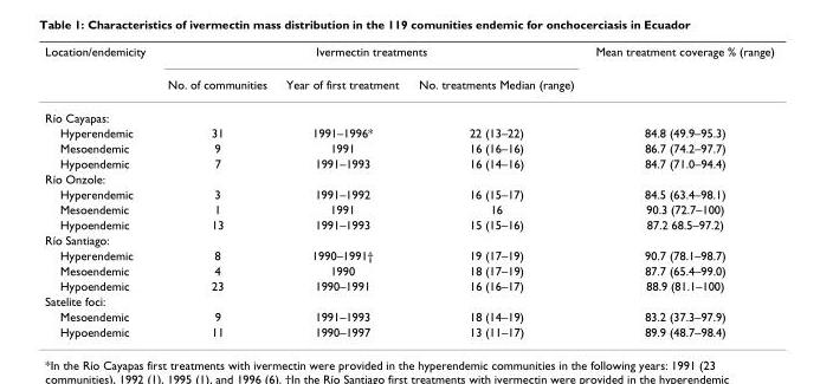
<table><thead><tr><td rowspan="2">Location/endemicity</td><td colspan="3">Ivermectin treatments</td><td rowspan="2">Mean treatment coverage % (range)</td></tr><tr><td>No. of communities</td><td>Year of first treatment</td><td>No. treatments Median (range)</td></tr></thead><tbody><tr><td colspan="5">Río Cayapas:</td></tr><tr><td>Hyperendemic</td><td>31</td><td>1991–1996*</td><td>22 (13–22)</td><td>84.8 (49.9–95.3)</td></tr><tr><td>Mesoendemic</td><td>9</td><td>1991</td><td>16 (16–16)</td><td>86.7 (74.2–97.7)</td></tr><tr><td>Hypoendemic</td><td>7</td><td>1991–1993</td><td>16 (14–16)</td><td>84.7 (71.0–94.4)</td></tr><tr><td colspan="5">Río Onzole:</td></tr><tr><td>Hyperendemic</td><td>3</td><td>1991–1992</td><td>16 (15–17)</td><td>84.5 (63.4–98.1)</td></tr><tr><td>Mesoendemic</td><td>1</td><td>1991</td><td>16</td><td>90.3 (72.7–100)</td></tr><tr><td>Hypoendemic</td><td>13</td><td>1991–1993</td><td>15 (15–16)</td><td>87.2 68.5–97.2)</td></tr><tr><td colspan="5">Río Santiago:</td></tr><tr><td>Hyperendemic</td><td>8</td><td>1990–1991†</td><td>19 (17–19)</td><td>90.7 (78.1–98.7)</td></tr><tr><td>Mesoendemic</td><td>4</td><td>1990</td><td>18 (17–19)</td><td>87.7 (65.4–99.0)</td></tr><tr><td>Hypoendemic</td><td>23</td><td>1990–1991</td><td>16 (16–17)</td><td>88.9 (81.1–100)</td></tr><tr><td colspan="5">Satelite foci:</td></tr><tr><td>Mesoendemic</td><td>9</td><td>1991–1993</td><td>18 (14–19)</td><td>83.2 (37.3–97.9)</td></tr><tr><td>Hypoendemic</td><td>11</td><td>1990–1997</td><td>13 (11–17)</td><td>89.9 (48.7–98.4)</td></tr></tbody></table>